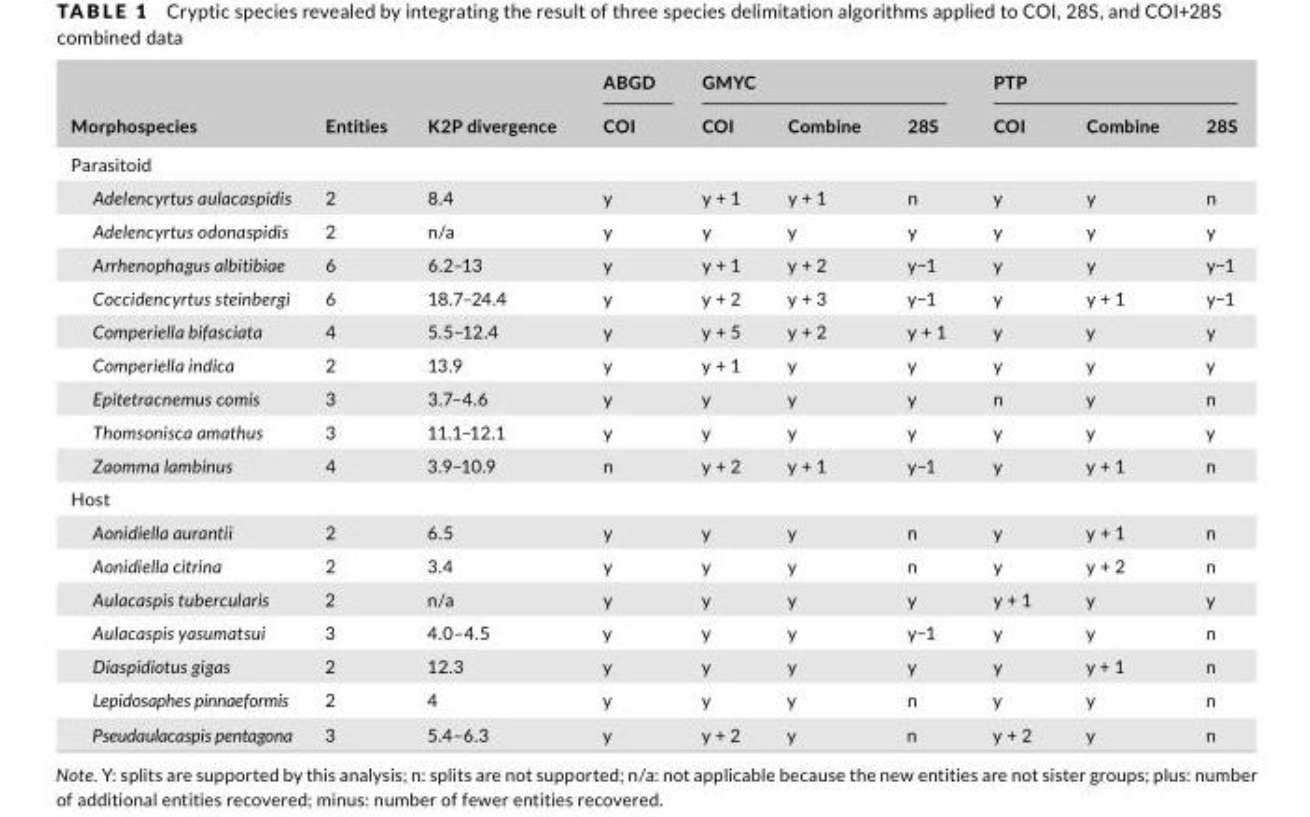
<table><thead><tr><td rowspan="2">Morphospecies</td><td rowspan="2">Entities</td><td rowspan="2">K2P divergence</td><td rowspan="2">ABGD COI</td><td colspan="3">GMYC</td><td colspan="3">PTP</td></tr><tr><td>COI</td><td>Combine</td><td>28S</td><td>COI</td><td>Combine</td><td>28S</td></tr></thead><tbody><tr><td colspan="10">Parasitoid</td></tr><tr><td>Adelencyrtus aulacaspidis</td><td>2</td><td>8.4</td><td>y</td><td>y + 1</td><td>y + 1</td><td>n</td><td>y</td><td>y</td><td>n</td></tr><tr><td>Adelencyrtus odonaspidis</td><td>2</td><td>n/a</td><td>y</td><td>y</td><td>y</td><td>y</td><td>y</td><td>y</td><td>y</td></tr><tr><td>Arrhenophagus albitibiae</td><td>6</td><td>6.2–13</td><td>y</td><td>y + 1</td><td>y + 2</td><td>y−1</td><td>y</td><td>y</td><td>y−1</td></tr><tr><td>Coccidencyrtus steinbergi</td><td>6</td><td>18.7–24.4</td><td>y</td><td>y + 2</td><td>y + 3</td><td>y−1</td><td>y</td><td>y + 1</td><td>y−1</td></tr><tr><td>Comperiella bifasciata</td><td>4</td><td>5.5–12.4</td><td>y</td><td>y + 5</td><td>y + 2</td><td>y + 1</td><td>y</td><td>y</td><td>y</td></tr><tr><td>Comperiella indica</td><td>2</td><td>13.9</td><td>y</td><td>y + 1</td><td>y</td><td>y</td><td>y</td><td>y</td><td>y</td></tr><tr><td>Epitetracnemus comis</td><td>3</td><td>3.7–4.6</td><td>y</td><td>y</td><td>y</td><td>y</td><td>n</td><td>y</td><td>n</td></tr><tr><td>Thomsonisca amathus</td><td>3</td><td>11.1–12.1</td><td>y</td><td>y</td><td>y</td><td>y</td><td>y</td><td>y</td><td>y</td></tr><tr><td>Zaomma lambinus</td><td>4</td><td>3.9–10.9</td><td>n</td><td>y + 2</td><td>y + 1</td><td>y−1</td><td>y</td><td>y + 1</td><td>n</td></tr><tr><td colspan="10">Host</td></tr><tr><td>Aonidiella aurantii</td><td>2</td><td>6.5</td><td>y</td><td>y</td><td>y</td><td>n</td><td>y</td><td>y + 1</td><td>n</td></tr><tr><td>Aonidiella citrina</td><td>2</td><td>3.4</td><td>y</td><td>y</td><td>y</td><td>n</td><td>y</td><td>y + 2</td><td>n</td></tr><tr><td>Aulacaspis tubercularis</td><td>2</td><td>n/a</td><td>y</td><td>y</td><td>y</td><td>y</td><td>y + 1</td><td>y</td><td>y</td></tr><tr><td>Aulacaspis yasumatsui</td><td>3</td><td>4.0–4.5</td><td>y</td><td>y</td><td>y</td><td>y−1</td><td>y</td><td>y</td><td>n</td></tr><tr><td>Diaspidiotus gigas</td><td>2</td><td>12.3</td><td>y</td><td>y</td><td>y</td><td>y</td><td>y</td><td>y + 1</td><td>n</td></tr><tr><td>Lepidosaphes pinnaeformis</td><td>2</td><td>4</td><td>y</td><td>y</td><td>y</td><td>n</td><td>y</td><td>y</td><td>n</td></tr><tr><td>Pseudaulacaspis pentagona</td><td>3</td><td>5.4–6.3</td><td>y</td><td>y + 2</td><td>y</td><td>n</td><td>y + 2</td><td>y</td><td>n</td></tr></tbody></table>